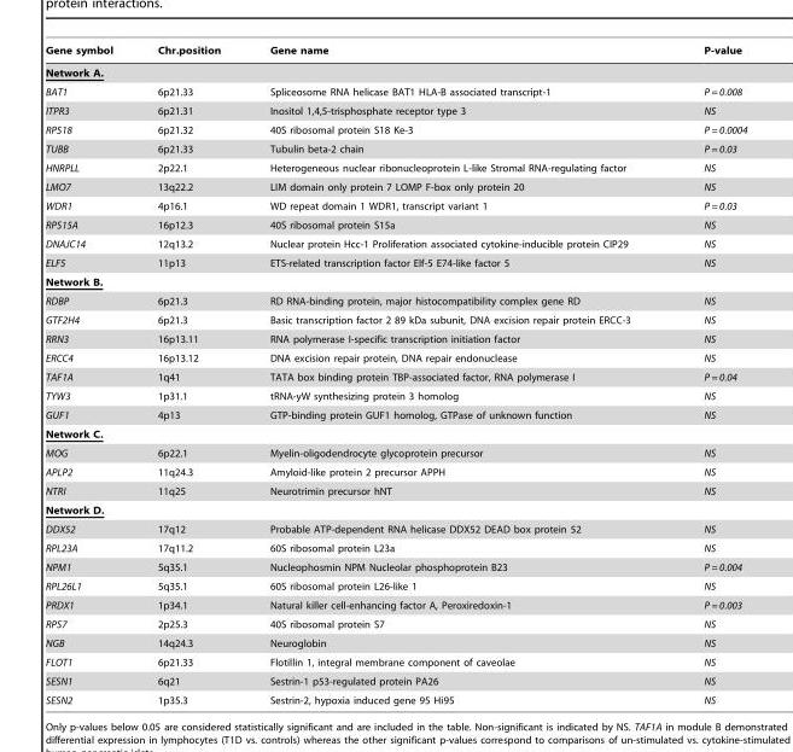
<table><thead><tr><td>Gene symbol</td><td>Chr.position</td><td>Gene name</td><td>P-value</td></tr></thead><tbody><tr><td colspan="4">Network A.</td></tr><tr><td>BAT1</td><td>6p21.33</td><td>Spliceosome RNA helicase BAT1 HLA-B associated transcript-1</td><td>P = 0.008</td></tr><tr><td>ITPR3</td><td>6p21.31</td><td>Inositol 1,4,5-trisphosphate receptor type 3</td><td>NS</td></tr><tr><td>RPS18</td><td>6p21.32</td><td>40S ribosomal protein S18 Ke-3</td><td>P = 0.0004</td></tr><tr><td>TUBB</td><td>6p21.33</td><td>Tubulin beta-2 chain</td><td>P = 0.03</td></tr><tr><td>HNRPLL</td><td>2p22.1</td><td>Heterogeneous nuclear ribonucleoprotein L-like Stromal RNA-regulating factor</td><td>NS</td></tr><tr><td>LMO7</td><td>13q22.2</td><td>LIM domain only protein 7 LOMP F-box only protein 20</td><td>NS</td></tr><tr><td>WDR1</td><td>4p16.1</td><td>WD repeat domain 1 WDR1, transcript variant 1</td><td>P = 0.03</td></tr><tr><td>RPS15A</td><td>16p12.3</td><td>40S ribosomal protein S15a</td><td>NS</td></tr><tr><td>DNAJC14</td><td>12q13.2</td><td>Nuclear protein Hcc-1 Proliferation associated cytokine-inducible protein CIP29</td><td>NS</td></tr><tr><td>ELF5</td><td>11p13</td><td>ETS-related transcription factor Elf-5 E74-like factor 5</td><td>NS</td></tr><tr><td colspan="4">Network B.</td></tr><tr><td>RDBP</td><td>6p21.3</td><td>RD RNA-binding protein, major histocompatibility complex gene RD</td><td>NS</td></tr><tr><td>GTF2H4</td><td>6p21.3</td><td>Basic transcription factor 2 89 kDa subunit, DNA excision repair protein ERCC-3</td><td>NS</td></tr><tr><td>RRN3</td><td>16p13.11</td><td>RNA polymerase I-specific transcription initiation factor</td><td>NS</td></tr><tr><td>ERCC4</td><td>16p13.12</td><td>DNA excision repair protein, DNA repair endonuclease</td><td>NS</td></tr><tr><td>TAF1A</td><td>1q41</td><td>TATA box binding protein TBP-associated factor, RNA polymerase I</td><td>P = 0.04</td></tr><tr><td>TYW3</td><td>1p31.1</td><td>tRNA-yW synthesizing protein 3 homolog</td><td>NS</td></tr><tr><td>GUF1</td><td>4p13</td><td>GTP-binding protein GUF1 homolog, GTPase of unknown function</td><td>NS</td></tr><tr><td colspan="4">Network C.</td></tr><tr><td>MOG</td><td>6p22.1</td><td>Myelin-oligodendrocyte glycoprotein precursor</td><td>NS</td></tr><tr><td>APLP2</td><td>11q24.3</td><td>Amyloid-like protein 2 precursor APPH</td><td>NS</td></tr><tr><td>NTRI</td><td>11q25</td><td>Neurotrimin precursor hNT</td><td>NS</td></tr><tr><td colspan="4">Network D.</td></tr><tr><td>DDX52</td><td>17q12</td><td>Probable ATP-dependent RNA helicase DDX52 DEAD box protein 52</td><td>NS</td></tr><tr><td>RPL23A</td><td>17q11.2</td><td>60S ribosomal protein L23a</td><td>NS</td></tr><tr><td>NPM1</td><td>5q35.1</td><td>Nucleophosmin NPM Nucleolar phosphoprotein B23</td><td>P = 0.004</td></tr><tr><td>RPL26L1</td><td>5q35.1</td><td>60S ribosomal protein L26-like 1</td><td>NS</td></tr><tr><td>PRDX1</td><td>1p34.1</td><td>Natural killer cell-enhancing factor A, Peroxiredoxin-1</td><td>P = 0.003</td></tr><tr><td>RPS7</td><td>2p25.3</td><td>40S ribosomal protein S7</td><td>NS</td></tr><tr><td>NGB</td><td>14q24.3</td><td>Neuroglobin</td><td>NS</td></tr><tr><td>FLOT1</td><td>6p21.33</td><td>Flotillin 1, integral membrane component of caveolae</td><td>NS</td></tr><tr><td>SESN1</td><td>6q21</td><td>Sestrin-1 p53-regulated protein PA26</td><td>NS</td></tr><tr><td>SESN2</td><td>1p35.3</td><td>Sestrin-2, hypoxia induced gene 95 Hi95</td><td>NS</td></tr></tbody></table>